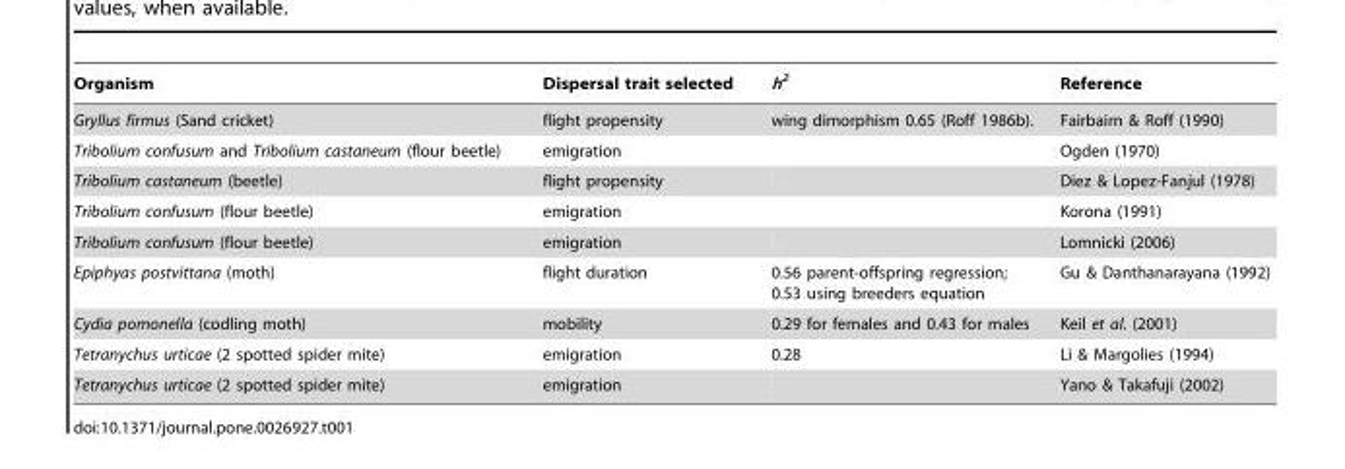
<table><thead><tr><td>Organism</td><td>Dispersal trait selected</td><td>h<sup>2</sup></td><td>Reference</td></tr></thead><tbody><tr><td>Gryllus firmus (Sand cricket)</td><td>flight propensity</td><td>wing dimorphism 0.65 (Roff 1986b).</td><td>Fairbairn &amp; Roff (1990)</td></tr><tr><td>Tribolium confusum and Tribolium castaneum (flour beetle)</td><td>emigration</td><td></td><td>Ogden (1970)</td></tr><tr><td>Tribolium castaneum (beetle)</td><td>flight propensity</td><td></td><td>Diez &amp; Lopez-Fanjul (1978)</td></tr><tr><td>Tribolium confusum (flour beetle)</td><td>emigration</td><td></td><td>Korona (1991)</td></tr><tr><td>Tribolium confusum (flour beetle)</td><td>emigration</td><td></td><td>Lomnicki (2006)</td></tr><tr><td>Epiphyas postvittana (moth)</td><td>flight duration</td><td>0.56 parent-offspring regression; 0.53 using breeders equation</td><td>Gu &amp; Danthanarayana (1992)</td></tr><tr><td>Cydia pomonella (codling moth)</td><td>mobility</td><td>0.29 for females and 0.43 for males</td><td>Keil et al. (2001)</td></tr><tr><td>Tetranychus urticae (2 spotted spider mite)</td><td>emigration</td><td>0.28</td><td>Li &amp; Margolies (1994)</td></tr><tr><td>Tetranychus urticae (2 spotted spider mite)</td><td>emigration</td><td></td><td>Yano &amp; Takafuji (2002)</td></tr></tbody></table>